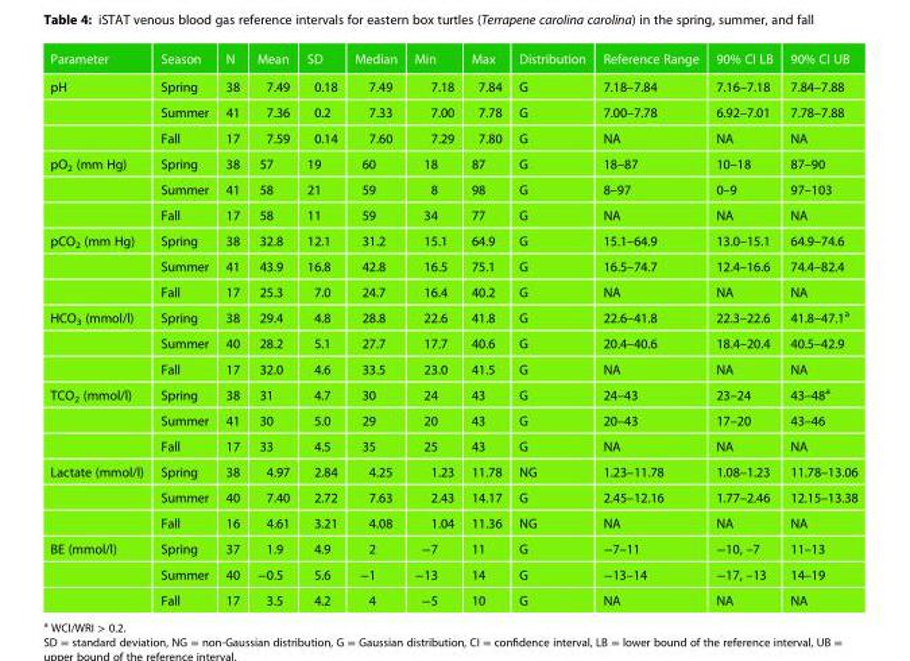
<table><thead><tr><td>Parameter</td><td>Season</td><td>N</td><td>Mean</td><td>SD</td><td>Median</td><td>Min</td><td>Max</td><td>Distribution</td><td>Reference Range</td><td>90% CI LB</td><td>90% CI UB</td></tr></thead><tbody><tr><td rowspan="3">pH</td><td>Spring</td><td>38</td><td>7.49</td><td>0.18</td><td>7.49</td><td>7.18</td><td>7.84</td><td>G</td><td>7.18–7.84</td><td>7.16–7.18</td><td>7.84–7.88</td></tr><tr><td>Summer</td><td>41</td><td>7.36</td><td>0.2</td><td>7.33</td><td>7.00</td><td>7.78</td><td>G</td><td>7.00–7.78</td><td>6.92–7.01</td><td>7.78–7.88</td></tr><tr><td>Fall</td><td>17</td><td>7.59</td><td>0.14</td><td>7.60</td><td>7.29</td><td>7.80</td><td>G</td><td>NA</td><td>NA</td><td>NA</td></tr><tr><td rowspan="3">pO<sub>2</sub> (mm Hg)</td><td>Spring</td><td>38</td><td>57</td><td>19</td><td>60</td><td>18</td><td>87</td><td>G</td><td>18–87</td><td>10–18</td><td>87–90</td></tr><tr><td>Summer</td><td>41</td><td>58</td><td>21</td><td>59</td><td>8</td><td>98</td><td>G</td><td>8–97</td><td>0–9</td><td>97–103</td></tr><tr><td>Fall</td><td>17</td><td>58</td><td>11</td><td>59</td><td>34</td><td>77</td><td>G</td><td>NA</td><td>NA</td><td>NA</td></tr><tr><td rowspan="3">pCO<sub>2</sub> (mm Hg)</td><td>Spring</td><td>38</td><td>32.8</td><td>12.1</td><td>31.2</td><td>15.1</td><td>64.9</td><td>G</td><td>15.1–64.9</td><td>13.0–15.1</td><td>64.9–74.6</td></tr><tr><td>Summer</td><td>41</td><td>43.9</td><td>16.8</td><td>42.8</td><td>16.5</td><td>75.1</td><td>G</td><td>16.5–74.7</td><td>12.4–16.6</td><td>74.4–82.4</td></tr><tr><td>Fall</td><td>17</td><td>25.3</td><td>7.0</td><td>24.7</td><td>16.4</td><td>40.2</td><td>G</td><td>NA</td><td>NA</td><td>NA</td></tr><tr><td rowspan="3">HCO<sub>3</sub> (mmol/l)</td><td>Spring</td><td>38</td><td>29.4</td><td>4.8</td><td>28.8</td><td>22.6</td><td>41.8</td><td>G</td><td>22.6–41.8</td><td>22.3–22.6</td><td>41.8–47.1<sup>a</sup></td></tr><tr><td>Summer</td><td>40</td><td>28.2</td><td>5.1</td><td>27.7</td><td>17.7</td><td>40.6</td><td>G</td><td>20.4–40.6</td><td>18.4–20.4</td><td>40.5–42.9</td></tr><tr><td>Fall</td><td>17</td><td>32.0</td><td>4.6</td><td>33.5</td><td>23.0</td><td>41.5</td><td>G</td><td>NA</td><td>NA</td><td>NA</td></tr><tr><td rowspan="3">TCO<sub>2</sub> (mmol/l)</td><td>Spring</td><td>38</td><td>31</td><td>4.7</td><td>30</td><td>24</td><td>43</td><td>G</td><td>24–43</td><td>23–24</td><td>43–48<sup>a</sup></td></tr><tr><td>Summer</td><td>41</td><td>30</td><td>5.0</td><td>29</td><td>20</td><td>43</td><td>G</td><td>20–43</td><td>17–20</td><td>43–46</td></tr><tr><td>Fall</td><td>17</td><td>33</td><td>4.5</td><td>35</td><td>25</td><td>43</td><td>G</td><td>NA</td><td>NA</td><td>NA</td></tr><tr><td rowspan="3">Lactate (mmol/l)</td><td>Spring</td><td>38</td><td>4.97</td><td>2.84</td><td>4.25</td><td>1.23</td><td>11.78</td><td>NG</td><td>1.23–11.78</td><td>1.08–1.23</td><td>11.78–13.06</td></tr><tr><td>Summer</td><td>40</td><td>7.40</td><td>2.72</td><td>7.63</td><td>2.43</td><td>14.17</td><td>G</td><td>2.45–12.16</td><td>1.77–2.46</td><td>12.15–13.38</td></tr><tr><td>Fall</td><td>16</td><td>4.61</td><td>3.21</td><td>4.08</td><td>1.04</td><td>11.36</td><td>NG</td><td>NA</td><td>NA</td><td>NA</td></tr><tr><td rowspan="3">BE (mmol/l)</td><td>Spring</td><td>37</td><td>1.9</td><td>4.9</td><td>2</td><td>−7</td><td>11</td><td>G</td><td>−7–11</td><td>−10, –7</td><td>11–13</td></tr><tr><td>Summer</td><td>40</td><td>−0.5</td><td>5.6</td><td>−1</td><td>−13</td><td>14</td><td>G</td><td>−13–14</td><td>−17, –13</td><td>14–19</td></tr><tr><td>Fall</td><td>17</td><td>3.5</td><td>4.2</td><td>4</td><td>−5</td><td>10</td><td>G</td><td>NA</td><td>NA</td><td>NA</td></tr></tbody></table>